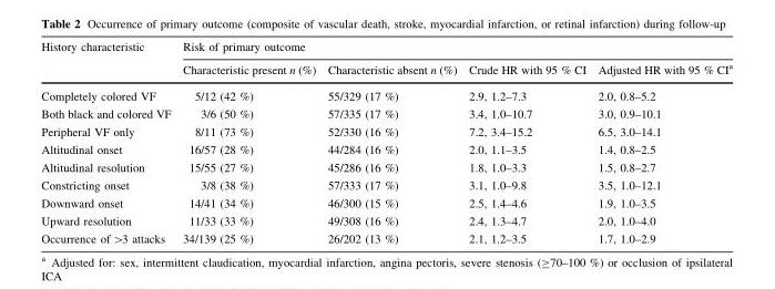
<table><thead><tr><td rowspan="2">History characteristic</td><td colspan="4">Risk of primary outcome</td></tr><tr><td>Characteristic present n (%)</td><td>Characteristic absent n (%)</td><td>Crude HR with 95 % CI</td><td>Adjusted HR with 95 % CI<sup>a</sup></td></tr></thead><tbody><tr><td>Completely colored VF</td><td>5/12 (42 %)</td><td>55/329 (17 %)</td><td>2.9, 1.2–7.3</td><td>2.0, 0.8–5.2</td></tr><tr><td>Both black and colored VF</td><td>3/6 (50 %)</td><td>57/335 (17 %)</td><td>3.4, 1.0–10.7</td><td>3.0, 0.9–10.1</td></tr><tr><td>Peripheral VF only</td><td>8/11 (73 %)</td><td>52/330 (16 %)</td><td>7.2, 3.4–15.2</td><td>6.5, 3.0–14.1</td></tr><tr><td>Altitudinal onset</td><td>16/57 (28 %)</td><td>44/284 (16 %)</td><td>2.0, 1.1–3.5</td><td>1.4, 0.8–2.5</td></tr><tr><td>Altitudinal resolution</td><td>15/55 (27 %)</td><td>45/286 (16 %)</td><td>1.8, 1.0–3.3</td><td>1.5, 0.8–2.7</td></tr><tr><td>Constricting onset</td><td>3/8 (38 %)</td><td>57/333 (17 %)</td><td>3.1, 1.0–9.8</td><td>3.5, 1.0–12.1</td></tr><tr><td>Downward onset</td><td>14/41 (34 %)</td><td>46/300 (15 %)</td><td>2.5, 1.4–4.6</td><td>1.9, 1.0–3.5</td></tr><tr><td>Upward resolution</td><td>11/33 (33 %)</td><td>49/308 (16 %)</td><td>2.4, 1.3–4.7</td><td>2.0, 1.0–4.0</td></tr><tr><td>Occurrence of &gt;3 attacks</td><td>34/139 (25 %)</td><td>26/202 (13 %)</td><td>2.1, 1.2–3.5</td><td>1.7, 1.0–2.9</td></tr></tbody></table>